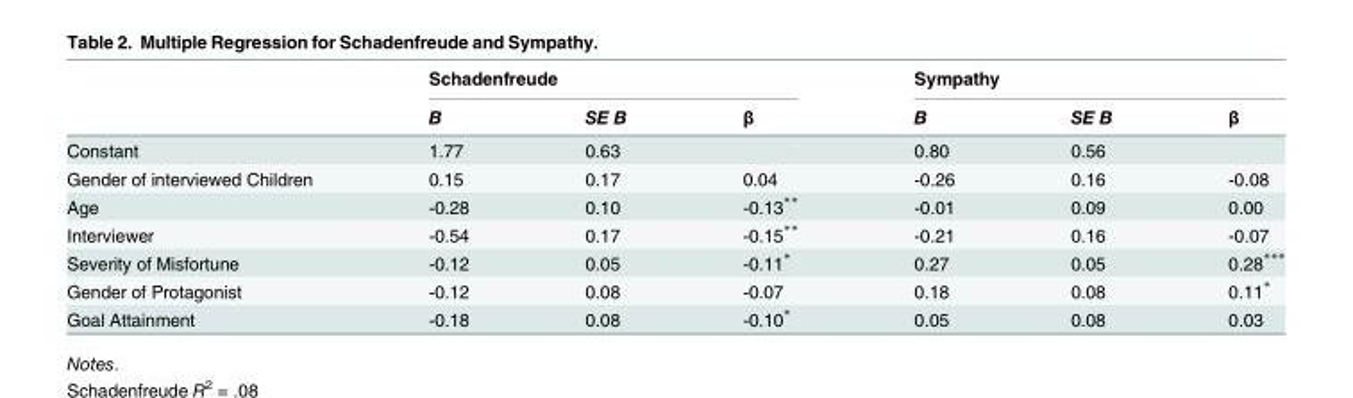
<table><thead><tr><td rowspan="2"></td><td colspan="3">Schadenfreude</td><td colspan="3">Sympathy</td></tr><tr><td>B</td><td>SE B</td><td>β</td><td>B</td><td>SE B</td><td>β</td></tr></thead><tbody><tr><td>Constant</td><td>1.77</td><td>0.63</td><td></td><td>0.80</td><td>0.56</td><td></td></tr><tr><td>Gender of interviewed Children</td><td>0.15</td><td>0.17</td><td>0.04</td><td>-0.26</td><td>0.16</td><td>-0.08</td></tr><tr><td>Age</td><td>-0.28</td><td>0.10</td><td>-0.13**</td><td>-0.01</td><td>0.09</td><td>0.00</td></tr><tr><td>Interviewer</td><td>-0.54</td><td>0.17</td><td>-0.15**</td><td>-0.21</td><td>0.16</td><td>-0.07</td></tr><tr><td>Severity of Misfortune</td><td>-0.12</td><td>0.05</td><td>-0.11*</td><td>0.27</td><td>0.05</td><td>0.28***</td></tr><tr><td>Gender of Protagonist</td><td>-0.12</td><td>0.08</td><td>-0.07</td><td>0.18</td><td>0.08</td><td>0.11*</td></tr><tr><td>Goal Attainment</td><td>-0.18</td><td>0.08</td><td>-0.10*</td><td>0.05</td><td>0.08</td><td>0.03</td></tr></tbody></table>